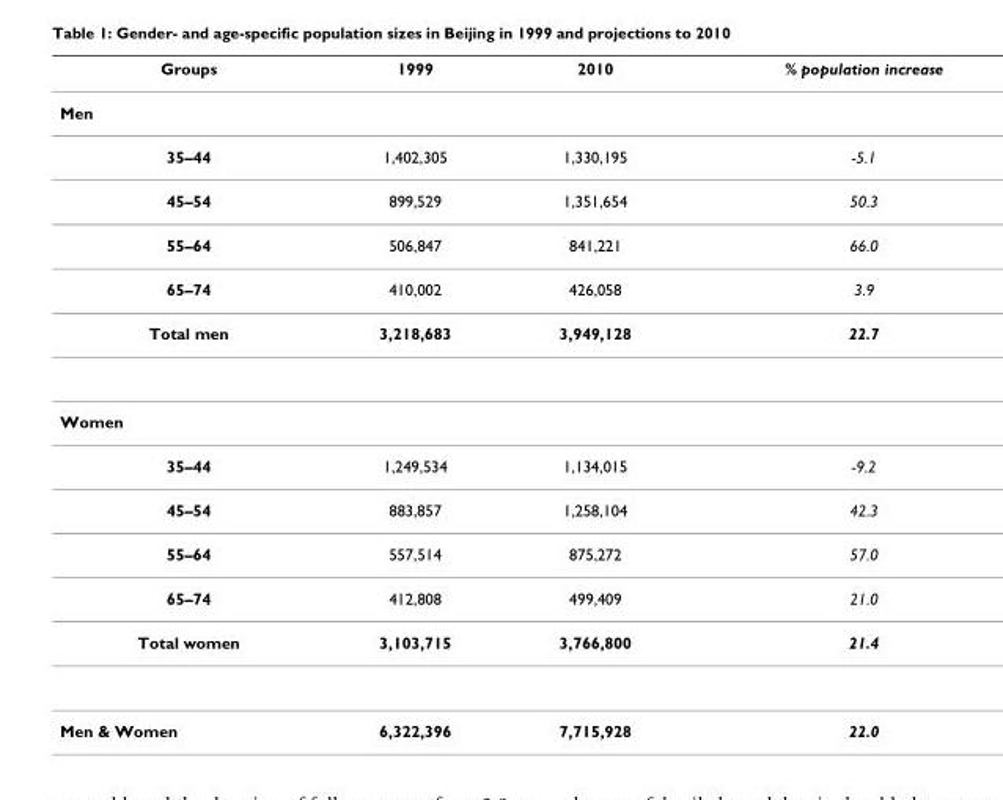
<table><thead><tr><td>Groups</td><td>1999</td><td>2010</td><td>% population increase</td></tr></thead><tbody><tr><td colspan="4">Men</td></tr><tr><td>35–44</td><td>1,402,305</td><td>1,330,195</td><td>-5.1</td></tr><tr><td>45–54</td><td>899,529</td><td>1,351,654</td><td>50.3</td></tr><tr><td>55–64</td><td>506,847</td><td>841,221</td><td>66.0</td></tr><tr><td>65–74</td><td>410,002</td><td>426,058</td><td>3.9</td></tr><tr><td>Total men</td><td>3,218,683</td><td>3,949,128</td><td>22.7</td></tr><tr><td colspan="4">Women</td></tr><tr><td>35–44</td><td>1,249,534</td><td>1,134,015</td><td>-9.2</td></tr><tr><td>45–54</td><td>883,857</td><td>1,258,104</td><td>42.3</td></tr><tr><td>55–64</td><td>557,514</td><td>875,272</td><td>57.0</td></tr><tr><td>65–74</td><td>412,808</td><td>499,409</td><td>21.0</td></tr><tr><td>Total women</td><td>3,103,715</td><td>3,766,800</td><td>21.4</td></tr><tr><td>Men &amp; Women</td><td>6,322,396</td><td>7,715,928</td><td>22.0</td></tr></tbody></table>